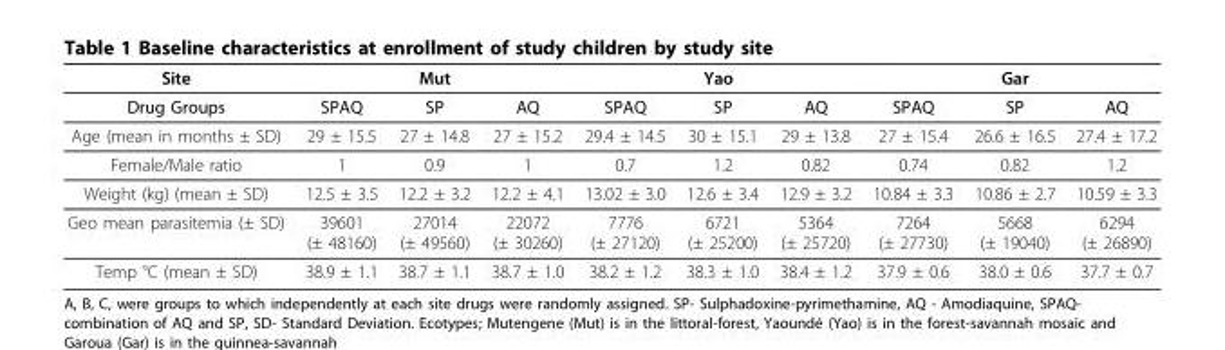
<table><thead><tr><td rowspan="2">Site Drug Groups</td><td colspan="3">Mut</td><td colspan="3">Yao</td><td colspan="3">Gar</td></tr><tr><td>SPAQ</td><td>SP</td><td>AQ</td><td>SPAQ</td><td>SP</td><td>AQ</td><td>SPAQ</td><td>SP</td><td>AQ</td></tr></thead><tbody><tr><td>Age (mean in months ± SD)</td><td>29 ± 15.5</td><td>27 ± 14.8</td><td>27 ± 15.2</td><td>29.4 ± 14.5</td><td>30 ± 15.1</td><td>29 ± 13.8</td><td>27 ± 15.4</td><td>26.6 ± 16.5</td><td>27.4 ± 17.2</td></tr><tr><td>Female/Male ratio</td><td>1</td><td>0.9</td><td>1</td><td>0.7</td><td>1.2</td><td>0.82</td><td>0.74</td><td>0.82</td><td>1.2</td></tr><tr><td>Weight (kg) (mean ± SD)</td><td>12.5 ± 3.5</td><td>12.2 ± 3.2</td><td>12.2 ± 4.1</td><td>13.02 ± 3.0</td><td>12.6 ± 3.4</td><td>12.9 ± 3.2</td><td>10.84 ± 3.3</td><td>10.86 ± 2.7</td><td>10.59 ± 3.3</td></tr><tr><td>Geo mean parasitemia (± SD)</td><td>39601 (± 48160)</td><td>27014 (± 49560)</td><td>22072 (± 30260)</td><td>7776 (± 27120)</td><td>6721 (± 25200)</td><td>5364 (± 25720)</td><td>7264 (± 27730)</td><td>5668 (± 19040)</td><td>6294 (± 26890)</td></tr><tr><td>Temp °C (mean ± SD)</td><td>38.9 ± 1.1</td><td>38.7 ± 1.1</td><td>38.7 ± 1.0</td><td>38.2 ± 1.2</td><td>38.3 ± 1.0</td><td>38.4 ± 1.2</td><td>37.9 ± 0.6</td><td>38.0 ± 0.6</td><td>37.7 ± 0.7</td></tr></tbody></table>